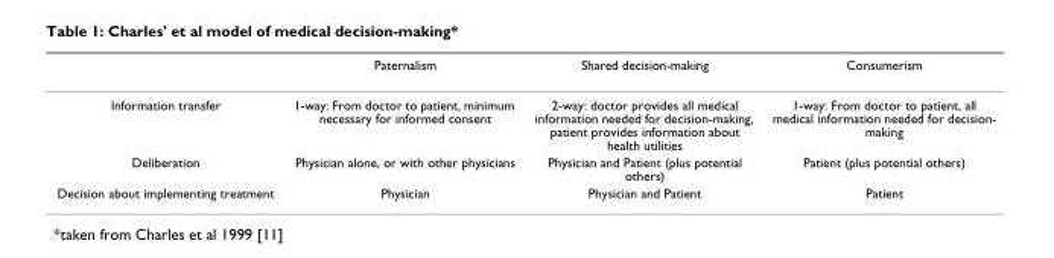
<table><thead><tr><td></td><td>Paternalism</td><td>Shared decision-making</td><td>Consumerism</td></tr></thead><tbody><tr><td>Information transfer</td><td>1-way: From doctor to patient, minimum necessary for informed consent</td><td>2-way: doctor provides all medical information needed for decision-making, patient provides information about health utilities</td><td>1-way: From doctor to patient, all medical information needed for decision- making</td></tr><tr><td>Deliberation</td><td>Physician alone, or with other physicians</td><td>Physician and Patient (plus potential others)</td><td>Patient (plus potential others)</td></tr><tr><td>Decision about implementing treatment</td><td>Physician</td><td>Physician and Patient</td><td>Patient</td></tr></tbody></table>